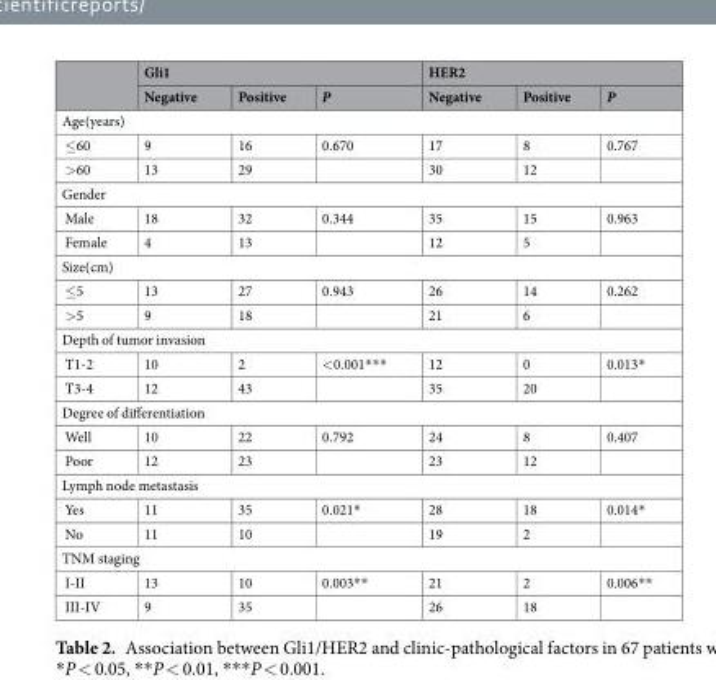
<table><thead><tr><td rowspan="2"></td><td colspan="3">Gli1</td><td colspan="3">HER2</td></tr><tr><td>Negative</td><td>Positive</td><td>P</td><td>Negative</td><td>Positive</td><td>P</td></tr></thead><tbody><tr><td colspan="7">Age(years)</td></tr><tr><td>≤60</td><td>9</td><td>16</td><td>0.670</td><td>17</td><td>8</td><td>0.767</td></tr><tr><td>&gt;60</td><td>13</td><td>29</td><td></td><td>30</td><td>12</td><td></td></tr><tr><td colspan="7">Gender</td></tr><tr><td>Male</td><td>18</td><td>32</td><td>0.344</td><td>35</td><td>15</td><td>0.963</td></tr><tr><td>Female</td><td>4</td><td>13</td><td></td><td>12</td><td>5</td><td></td></tr><tr><td colspan="7">Size(cm)</td></tr><tr><td>≤5</td><td>13</td><td>27</td><td>0.943</td><td>26</td><td>14</td><td>0.262</td></tr><tr><td>&gt;5</td><td>9</td><td>18</td><td></td><td>21</td><td>6</td><td></td></tr><tr><td colspan="7">Depth of tumor invasion</td></tr><tr><td>T1-2</td><td>10</td><td>2</td><td>&lt;0.001***</td><td>12</td><td>0</td><td>0.013*</td></tr><tr><td>T3-4</td><td>12</td><td>43</td><td></td><td>35</td><td>20</td><td></td></tr><tr><td colspan="7">Degree of differentiation</td></tr><tr><td>Well</td><td>10</td><td>22</td><td>0.792</td><td>24</td><td>8</td><td>0.407</td></tr><tr><td>Poor</td><td>12</td><td>23</td><td></td><td>23</td><td>12</td><td></td></tr><tr><td colspan="7">Lymph node metastasis</td></tr><tr><td>Yes</td><td>11</td><td>35</td><td>0.021*</td><td>28</td><td>18</td><td>0.014*</td></tr><tr><td>No</td><td>11</td><td>10</td><td></td><td>19</td><td>2</td><td></td></tr><tr><td colspan="7">TNM staging</td></tr><tr><td>I-II</td><td>13</td><td>10</td><td>0.003**</td><td>21</td><td>2</td><td>0.006**</td></tr><tr><td>III-IV</td><td>9</td><td>35</td><td></td><td>26</td><td>18</td><td></td></tr></tbody></table>